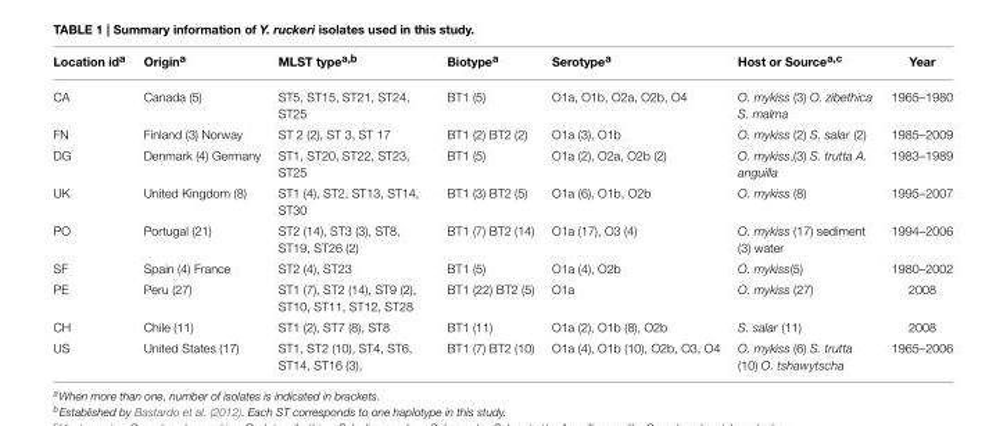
<table><thead><tr><td>Location id<sup>a</sup></td><td>Origin<sup>a</sup></td><td>MLST type<sup>a,b</sup></td><td>Biotype<sup>a</sup></td><td>Serotype<sup>a</sup></td><td>Host or Source<sup>a,c</sup></td><td>Year</td></tr></thead><tbody><tr><td>CA</td><td>Canada (5)</td><td>ST5, ST15, ST21, ST24, ST25</td><td>BT1 (5)</td><td>O1a, O1b, O2a, O2b, O4</td><td>O. mykiss (3) O. zibethica S. malma</td><td>1965–1980</td></tr><tr><td>FN</td><td>Finland (3) Norway</td><td>ST 2 (2), ST 3, ST 17</td><td>BT1 (2) BT2 (2)</td><td>O1a (3), O1b</td><td>O. mykiss (2) S. salar (2)</td><td>1985–2009</td></tr><tr><td>DG</td><td>Denmark (4) Germany</td><td>ST1, ST20, ST22, ST23, ST25</td><td>BT1 (5)</td><td>O1a (2), O2a, O2b (2)</td><td>O. mykiss,(3) S. trutta A. anguilla</td><td>1983–1989</td></tr><tr><td>UK</td><td>United Kingdom (8)</td><td>ST1 (4), ST2, ST13, ST14, ST30</td><td>BT1 (3) BT2 (5)</td><td>O1a (6), O1b, O2b</td><td>O. mykiss (8)</td><td>1995–2007</td></tr><tr><td>PO</td><td>Portugal (21)</td><td>ST2 (14), ST3 (3), ST8, ST19, ST26 (2)</td><td>BT1 (7) BT2 (14)</td><td>O1a (17), O3 (4)</td><td>O. mykiss (17) sediment (3) water</td><td>1994–2006</td></tr><tr><td>SF</td><td>Spain (4) France</td><td>ST2 (4), ST23</td><td>BT1 (5)</td><td>O1a (4), O2b</td><td>O. mykiss(5)</td><td>1980–2002</td></tr><tr><td>PE</td><td>Peru (27)</td><td>ST1 (7), ST2 (14), ST9 (2), ST10, ST11, ST12, ST28</td><td>BT1 (22) BT2 (5)</td><td>O1a</td><td>O. mykiss (27)</td><td>2008</td></tr><tr><td>CH</td><td>Chile (11)</td><td>ST1 (2), ST7 (8), ST8</td><td>BT1 (11)</td><td>O1a (2), O1b (8), O2b</td><td>S. salar (11)</td><td>2008</td></tr><tr><td>US</td><td>United States (17)</td><td>ST1, ST2 (10), ST4, ST6, ST14, ST16 (3),</td><td>BT1 (7) BT2 (10)</td><td>O1a (4), O1b (10), O2b, O3, O4</td><td>O. mykiss (6) S. trutta (10) O. tshawytscha</td><td>1965–2006</td></tr></tbody></table>